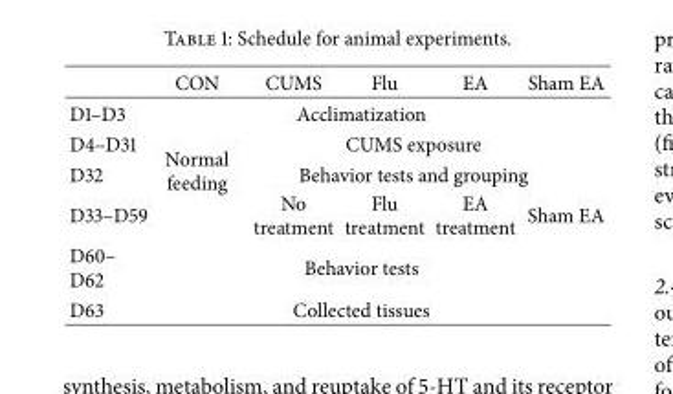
<table><thead><tr><td></td><td>CON</td><td>CUMS</td><td>Flu</td><td>EA</td><td>Sham EA</td></tr></thead><tbody><tr><td>D1–D3</td><td colspan="5">Acclimatization</td></tr><tr><td>D4–D31</td><td rowspan="3">Normal feeding</td><td colspan="4">CUMS exposure</td></tr><tr><td>D32</td><td colspan="4">Behavior tests and grouping</td></tr><tr><td>D33–D59</td><td>No treatment</td><td>Flu treatment</td><td>EA treatment</td><td>Sham EA</td></tr><tr><td>D60– D62</td><td colspan="5">Behavior tests</td></tr><tr><td>D63</td><td colspan="5">Collected tissues</td></tr></tbody></table>